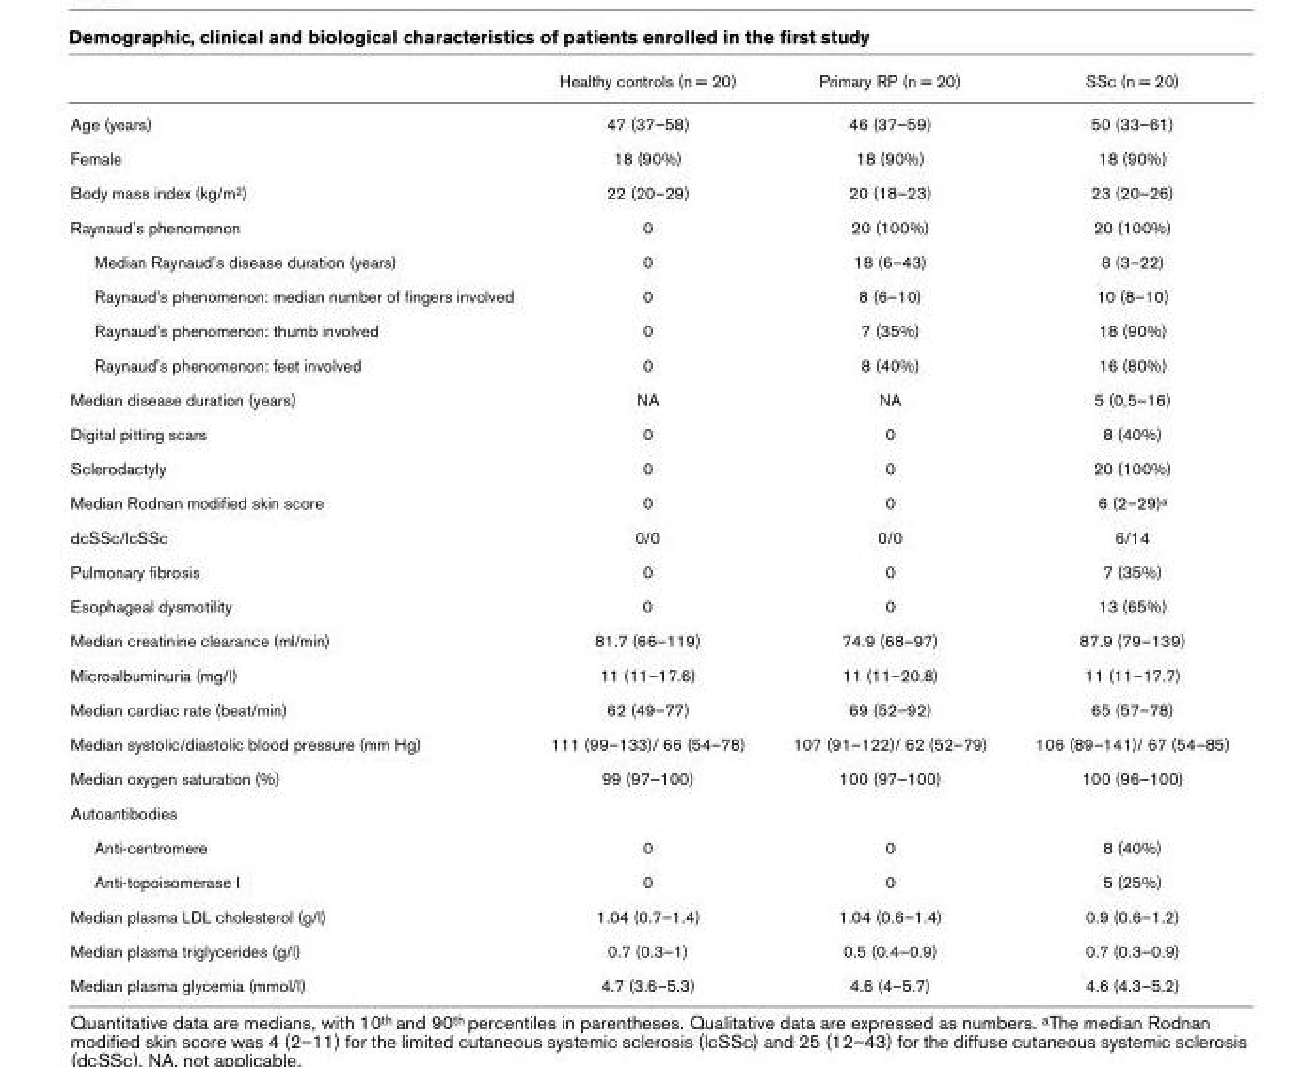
<table><thead><tr><td></td><td>Healthy controls (n = 20)</td><td>Primary RP (n = 20)</td><td>SSc (n = 20)</td></tr></thead><tbody><tr><td>Age (years)</td><td>47 (37–58)</td><td>46 (37–59)</td><td>50 (33–61)</td></tr><tr><td>Female</td><td>18 (90%)</td><td>18 (90%)</td><td>18 (90%)</td></tr><tr><td>Body mass index (kg/m2)</td><td>22 (20–29)</td><td>20 (18–23)</td><td>23 (20–26)</td></tr><tr><td>Raynaud&#x27;s phenomenon</td><td>0</td><td>20 (100%)</td><td>20 (100%)</td></tr><tr><td>Median Raynaud&#x27;s disease duration (years)</td><td>0</td><td>18 (6–43)</td><td>8 (3–22)</td></tr><tr><td>Raynaud&#x27;s phenomenon: median number of fingers involved</td><td>0</td><td>8 (6–10)</td><td>10 (8–10)</td></tr><tr><td>Raynaud&#x27;s phenomenon: thumb involved</td><td>0</td><td>7 (35%)</td><td>18 (90%)</td></tr><tr><td>Raynaud&#x27;s phenomenon: feet involved</td><td>0</td><td>8 (40%)</td><td>16 (80%)</td></tr><tr><td>Median disease duration (years)</td><td>NA</td><td>NA</td><td>5 (0,5–16)</td></tr><tr><td>Digital pitting scars</td><td>0</td><td>0</td><td>8 (40%)</td></tr><tr><td>Sclerodactyly</td><td>0</td><td>0</td><td>20 (100%)</td></tr><tr><td>Median Rodnan modified skin score</td><td>0</td><td>0</td><td>6 (2–29)a</td></tr><tr><td>dcSSc/lcSSc</td><td>0/0</td><td>0/0</td><td>6/14</td></tr><tr><td>Pulmonary fibrosis</td><td>0</td><td>0</td><td>7 (35%)</td></tr><tr><td>Esophageal dysmotility</td><td>0</td><td>0</td><td>13 (65%)</td></tr><tr><td>Median creatinine clearance (ml/min)</td><td>81.7 (66–119)</td><td>74.9 (68–97)</td><td>87.9 (79–139)</td></tr><tr><td>Microalbuminuria (mg/l)</td><td>11 (11–17.6)</td><td>11 (11–20.8)</td><td>11 (11–17.7)</td></tr><tr><td>Median cardiac rate (beat/min)</td><td>62 (49–77)</td><td>69 (52–92)</td><td>65 (57–78)</td></tr><tr><td>Median systolic/diastolic blood pressure (mm Hg)</td><td>111 (99–133)/ 66 (54–78)</td><td>107 (91–122)/ 62 (52–79)</td><td>106 (89–141)/ 67 (54–85)</td></tr><tr><td>Median oxygen saturation (%)</td><td>99 (97–100)</td><td>100 (97–100)</td><td>100 (96–100)</td></tr><tr><td colspan="4">Autoantibodies</td></tr><tr><td>Anti-centromere</td><td>0</td><td>0</td><td>8 (40%)</td></tr><tr><td>Anti-topoisomerase I</td><td>0</td><td>0</td><td>5 (25%)</td></tr><tr><td>Median plasma LDL cholesterol (g/l)</td><td>1.04 (0.7–1.4)</td><td>1.04 (0.6–1.4)</td><td>0.9 (0.6–1.2)</td></tr><tr><td>Median plasma triglycerides (g/l)</td><td>0.7 (0.3–1)</td><td>0.5 (0.4–0.9)</td><td>0.7 (0.3–0.9)</td></tr><tr><td>Median plasma glycemia (mmol/l)</td><td>4.7 (3.6–5.3)</td><td>4.6 (4–5.7)</td><td>4.6 (4.3–5.2)</td></tr></tbody></table>